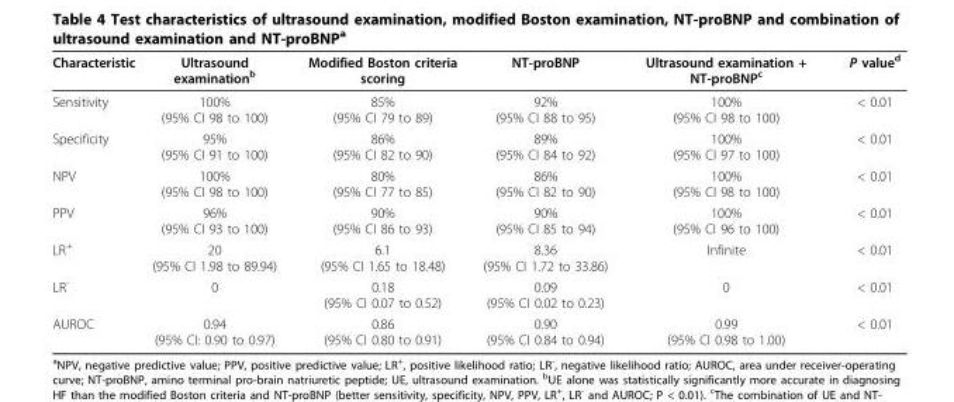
<table><thead><tr><td>Characteristic</td><td>Ultrasound examination<sup>b</sup></td><td>Modified Boston criteria scoring</td><td>NT-proBNP</td><td>Ultrasound examination + NT-proBNP<sup>c</sup></td><td>P value<sup>d</sup></td></tr></thead><tbody><tr><td>Sensitivity</td><td>100% (95% CI 98 to 100)</td><td>85% (95% CI 79 to 89)</td><td>92% (95% CI 88 to 95)</td><td>100% (95% CI 98 to 100)</td><td>&lt; 0.01</td></tr><tr><td>Specificity</td><td>95% (95% CI 91 to 100)</td><td>86% (95% CI 82 to 90)</td><td>89% (95% CI 84 to 92)</td><td>100% (95% CI 97 to 100)</td><td>&lt; 0.01</td></tr><tr><td>NPV</td><td>100% (95% CI 98 to 100)</td><td>80% (95% CI 77 to 85)</td><td>86% (95% CI 82 to 90)</td><td>100% (95% CI 98 to 100)</td><td>&lt; 0.01</td></tr><tr><td>PPV</td><td>96% (95% CI 93 to 100)</td><td>90% (95% CI 86 to 93)</td><td>90% (95% CI 85 to 94)</td><td>100% (95% CI 96 to 100)</td><td>&lt; 0.01</td></tr><tr><td>LR<sup>+</sup></td><td>20 (95% CI 1.98 to 89.94)</td><td>6.1 (95% CI 1.65 to 18.48)</td><td>8.36 (95% CI 1.72 to 33.86)</td><td>Infinite</td><td>&lt; 0.01</td></tr><tr><td>LR<sup>-</sup></td><td>0</td><td>0.18 (95% CI 0.07 to 0.52)</td><td>0.09 (95% CI 0.02 to 0.23)</td><td>0</td><td>&lt; 0.01</td></tr><tr><td>AUROC</td><td>0.94 (95% CI: 0.90 to 0.97)</td><td>0.86 (95% CI 0.80 to 0.91)</td><td>0.90 (95% CI 0.84 to 0.94)</td><td>0.99 (95% CI 0.98 to 1.00)</td><td>&lt; 0.01</td></tr></tbody></table>